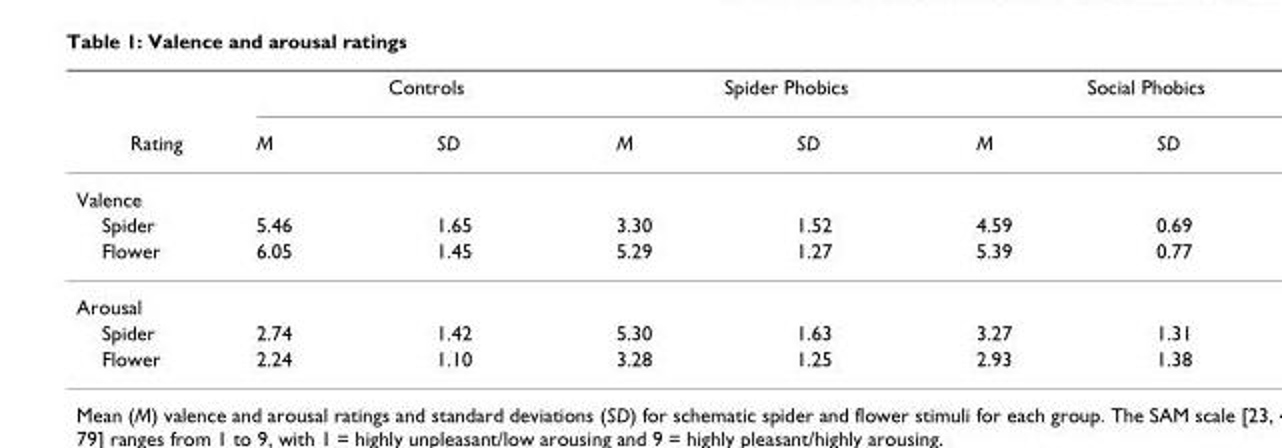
<table><thead><tr><td rowspan="2">Rating</td><td colspan="2">Controls</td><td colspan="2">Spider Phobics</td><td colspan="2">Social Phobics</td></tr><tr><td>M</td><td>SD</td><td>M</td><td>SD</td><td>M</td><td>SD</td></tr></thead><tbody><tr><td colspan="7">Valence</td></tr><tr><td>Spider</td><td>5.46</td><td>1.65</td><td>3.30</td><td>1.52</td><td>4.59</td><td>0.69</td></tr><tr><td>Flower</td><td>6.05</td><td>1.45</td><td>5.29</td><td>1.27</td><td>5.39</td><td>0.77</td></tr><tr><td colspan="7">Arousal</td></tr><tr><td>Spider</td><td>2.74</td><td>1.42</td><td>5.30</td><td>1.63</td><td>3.27</td><td>1.31</td></tr><tr><td>Flower</td><td>2.24</td><td>1.10</td><td>3.28</td><td>1.25</td><td>2.93</td><td>1.38</td></tr></tbody></table>